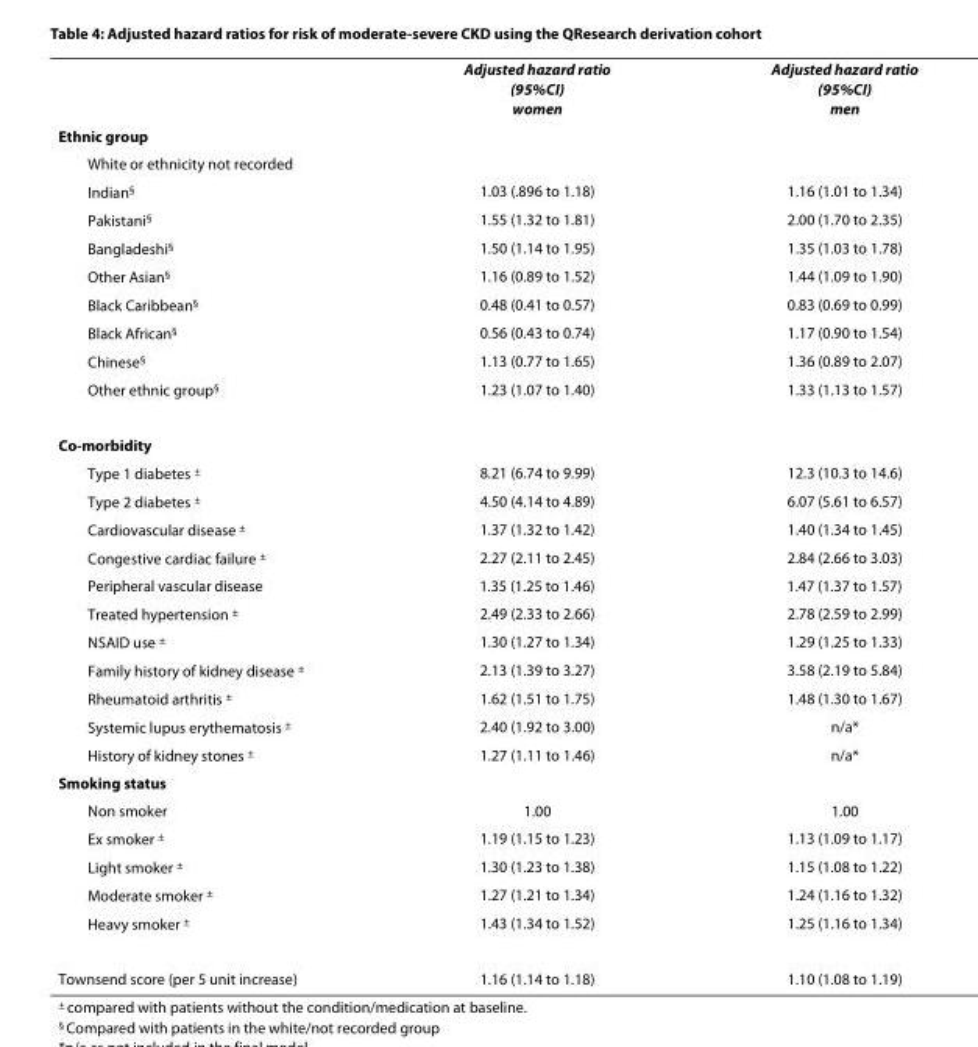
<table><thead><tr><td></td><td>Adjusted hazard ratio (95%CI) women</td><td>Adjusted hazard ratio (95%CI) men</td></tr></thead><tbody><tr><td colspan="3">Ethnic group</td></tr><tr><td colspan="3">White or ethnicity not recorded</td></tr><tr><td>Indian<sup>§</sup></td><td>1.03 (.896 to 1.18)</td><td>1.16 (1.01 to 1.34)</td></tr><tr><td>Pakistani<sup>§</sup></td><td>1.55 (1.32 to 1.81)</td><td>2.00 (1.70 to 2.35)</td></tr><tr><td>Bangladeshi<sup>§</sup></td><td>1.50 (1.14 to 1.95)</td><td>1.35 (1.03 to 1.78)</td></tr><tr><td>Other Asian<sup>§</sup></td><td>1.16 (0.89 to 1.52)</td><td>1.44 (1.09 to 1.90)</td></tr><tr><td>Black Caribbean<sup>§</sup></td><td>0.48 (0.41 to 0.57)</td><td>0.83 (0.69 to 0.99)</td></tr><tr><td>Black African<sup>§</sup></td><td>0.56 (0.43 to 0.74)</td><td>1.17 (0.90 to 1.54)</td></tr><tr><td>Chinese<sup>§</sup></td><td>1.13 (0.77 to 1.65)</td><td>1.36 (0.89 to 2.07)</td></tr><tr><td>Other ethnic group<sup>§</sup></td><td>1.23 (1.07 to 1.40)</td><td>1.33 (1.13 to 1.57)</td></tr><tr><td colspan="3">Co-morbidity</td></tr><tr><td>Type 1 diabetes <sup>±</sup></td><td>8.21 (6.74 to 9.99)</td><td>12.3 (10.3 to 14.6)</td></tr><tr><td>Type 2 diabetes <sup>±</sup></td><td>4.50 (4.14 to 4.89)</td><td>6.07 (5.61 to 6.57)</td></tr><tr><td>Cardiovascular disease <sup>±</sup></td><td>1.37 (1.32 to 1.42)</td><td>1.40 (1.34 to 1.45)</td></tr><tr><td>Congestive cardiac failure <sup>±</sup></td><td>2.27 (2.11 to 2.45)</td><td>2.84 (2.66 to 3.03)</td></tr><tr><td>Peripheral vascular disease</td><td>1.35 (1.25 to 1.46)</td><td>1.47 (1.37 to 1.57)</td></tr><tr><td>Treated hypertension <sup>±</sup></td><td>2.49 (2.33 to 2.66)</td><td>2.78 (2.59 to 2.99)</td></tr><tr><td>NSAID use <sup>±</sup></td><td>1.30 (1.27 to 1.34)</td><td>1.29 (1.25 to 1.33)</td></tr><tr><td>Family history of kidney disease <sup>±</sup></td><td>2.13 (1.39 to 3.27)</td><td>3.58 (2.19 to 5.84)</td></tr><tr><td>Rheumatoid arthritis <sup>±</sup></td><td>1.62 (1.51 to 1.75)</td><td>1.48 (1.30 to 1.67)</td></tr><tr><td>Systemic lupus erythematosis <sup>±</sup></td><td>2.40 (1.92 to 3.00)</td><td>n/a*</td></tr><tr><td>History of kidney stones <sup>±</sup></td><td>1.27 (1.11 to 1.46)</td><td>n/a*</td></tr><tr><td colspan="3">Smoking status</td></tr><tr><td>Non smoker</td><td>1.00</td><td>1.00</td></tr><tr><td>Ex smoker <sup>±</sup></td><td>1.19 (1.15 to 1.23)</td><td>1.13 (1.09 to 1.17)</td></tr><tr><td>Light smoker <sup>±</sup></td><td>1.30 (1.23 to 1.38)</td><td>1.15 (1.08 to 1.22)</td></tr><tr><td>Moderate smoker <sup>±</sup></td><td>1.27 (1.21 to 1.34)</td><td>1.24 (1.16 to 1.32)</td></tr><tr><td>Heavy smoker <sup>±</sup></td><td>1.43 (1.34 to 1.52)</td><td>1.25 (1.16 to 1.34)</td></tr><tr><td>Townsend score (per 5 unit increase)</td><td>1.16 (1.14 to 1.18)</td><td>1.10 (1.08 to 1.19)</td></tr></tbody></table>